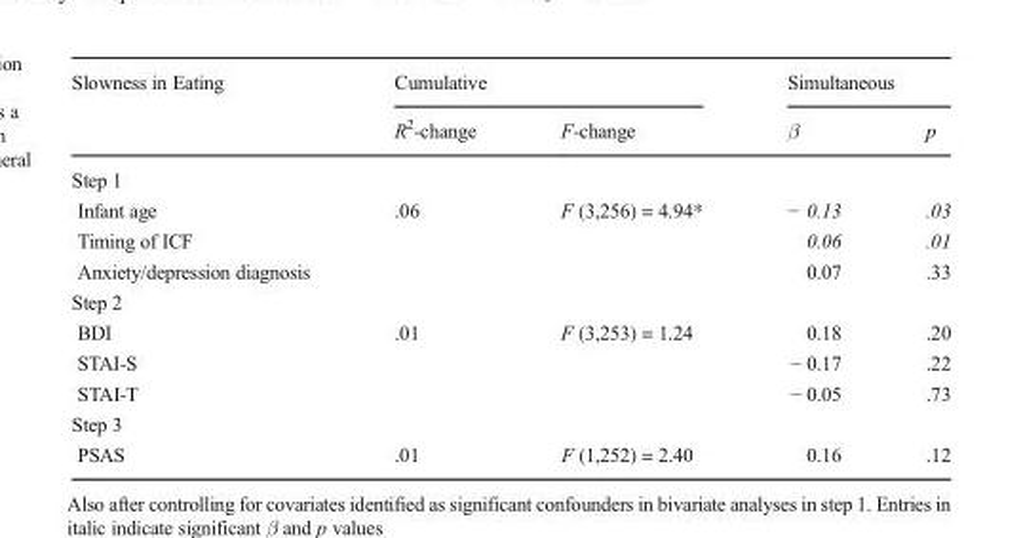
<table><thead><tr><td rowspan="2">Slowness in Eating</td><td colspan="2">Cumulative</td><td colspan="2">Simultaneous</td></tr><tr><td>R<sup>2</sup>-change</td><td>F-change</td><td>β</td><td>p</td></tr></thead><tbody><tr><td colspan="5">Step 1</td></tr><tr><td>Infant age</td><td rowspan="3">.06</td><td rowspan="3">F (3,256) = 4.94*</td><td>− 0.13</td><td>.03</td></tr><tr><td>Timing of ICF</td><td>0.06</td><td>.01</td></tr><tr><td>Anxiety/depression diagnosis</td><td>0.07</td><td>.33</td></tr><tr><td colspan="5">Step 2</td></tr><tr><td>BDI</td><td rowspan="3">.01</td><td rowspan="3">F (3,253) = 1.24</td><td>0.18</td><td>.20</td></tr><tr><td>STAI-S</td><td>− 0.17</td><td>.22</td></tr><tr><td>STAI-T</td><td>− 0.05</td><td>.73</td></tr><tr><td colspan="5">Step 3</td></tr><tr><td>PSAS</td><td>.01</td><td>F (1,252) = 2.40</td><td>0.16</td><td>.12</td></tr></tbody></table>